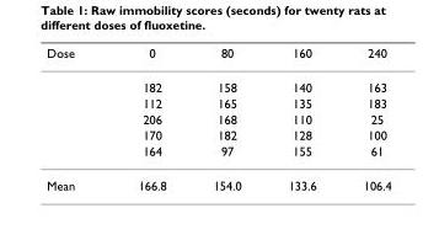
<table><thead><tr><td>Dose</td><td>0</td><td>80</td><td>160</td><td>240</td></tr></thead><tbody><tr><td></td><td>182</td><td>158</td><td>140</td><td>163</td></tr><tr><td></td><td>112</td><td>165</td><td>135</td><td>183</td></tr><tr><td></td><td>206</td><td>168</td><td>110</td><td>25</td></tr><tr><td></td><td>170</td><td>182</td><td>128</td><td>100</td></tr><tr><td></td><td>164</td><td>97</td><td>155</td><td>61</td></tr><tr><td>Mean</td><td>166.8</td><td>154.0</td><td>133.6</td><td>106.4</td></tr></tbody></table>